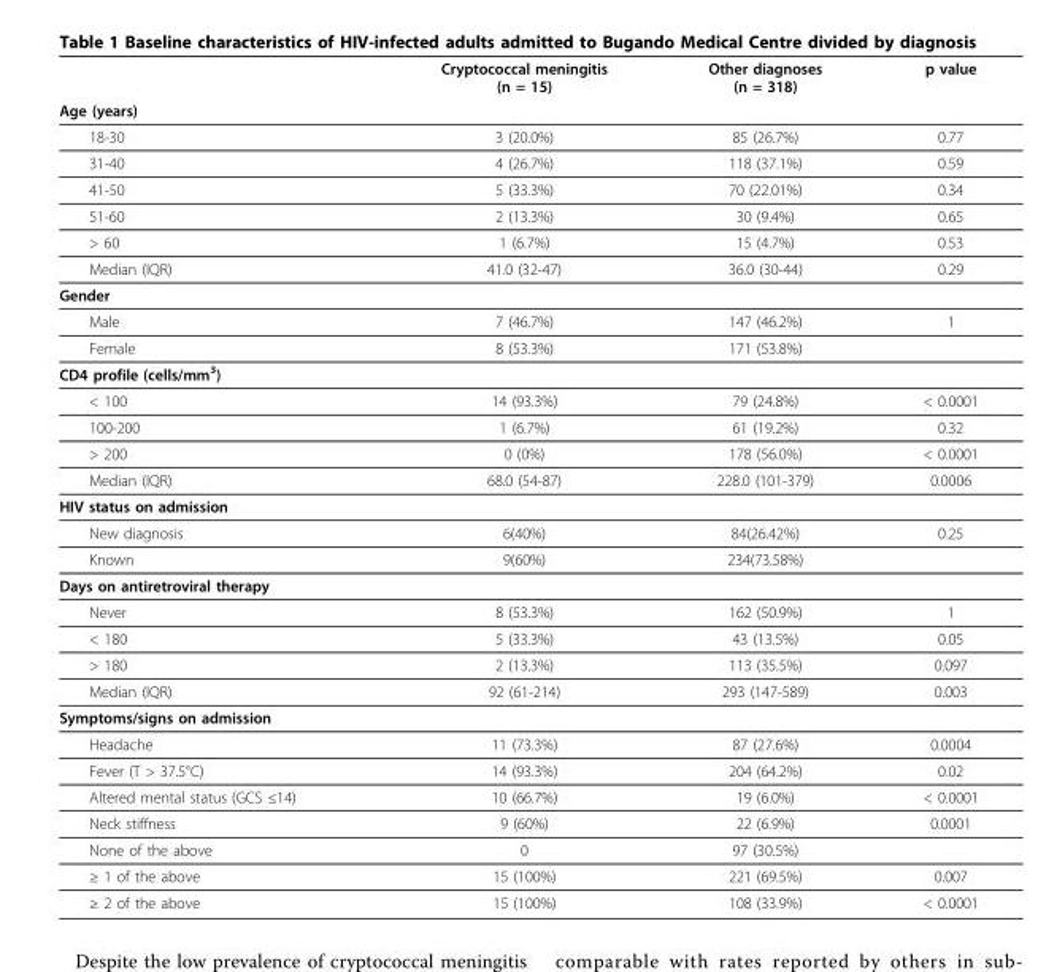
<table><thead><tr><td rowspan="2">Age (years)</td><td rowspan="2">Cryptococcal meningitis (n = 15)</td><td rowspan="2">Other diagnoses (n = 318)</td><td rowspan="2">p value</td></tr><tr></tr></thead><tbody><tr><td>18-30</td><td>3 (20.0%)</td><td>85 (26.7%)</td><td>0.77</td></tr><tr><td>31-40</td><td>4 (26.7%)</td><td>118 (37.1%)</td><td>0.59</td></tr><tr><td>41-50</td><td>5 (33.3%)</td><td>70 (22.01%)</td><td>0.34</td></tr><tr><td>51-60</td><td>2 (13.3%)</td><td>30 (9.4%)</td><td>0.65</td></tr><tr><td>&gt; 60</td><td>1 (6.7%)</td><td>15 (4.7%)</td><td>0.53</td></tr><tr><td>Median (IQR)</td><td>41.0 (32-47)</td><td>36.0 (30-44)</td><td>0.29</td></tr><tr><td colspan="4">Gender</td></tr><tr><td>Male</td><td>7 (46.7%)</td><td>147 (46.2%)</td><td>1</td></tr><tr><td>Female</td><td>8 (53.3%)</td><td>171 (53.8%)</td><td></td></tr><tr><td colspan="4">CD4 profile (cells/mm<sup>3</sup>)</td></tr><tr><td>&lt; 100</td><td>14 (93.3%)</td><td>79 (24.8%)</td><td>&lt; 0.0001</td></tr><tr><td>100-200</td><td>1 (6.7%)</td><td>61 (19.2%)</td><td>0.32</td></tr><tr><td>&gt; 200</td><td>0 (0%)</td><td>178 (56.0%)</td><td>&lt; 0.0001</td></tr><tr><td>Median (IQR)</td><td>68.0 (54-87)</td><td>228.0 (101-379)</td><td>0.0006</td></tr><tr><td colspan="4">HIV status on admission</td></tr><tr><td>New diagnosis</td><td>6(40%)</td><td>84(26.42%)</td><td>0.25</td></tr><tr><td>Known</td><td>9(60%)</td><td>234(73.58%)</td><td></td></tr><tr><td colspan="4">Days on antiretroviral therapy</td></tr><tr><td>Never</td><td>8 (53.3%)</td><td>162 (50.9%)</td><td>1</td></tr><tr><td>&lt; 180</td><td>5 (33.3%)</td><td>43 (13.5%)</td><td>0.05</td></tr><tr><td>&gt; 180</td><td>2 (13.3%)</td><td>113 (35.5%)</td><td>0.097</td></tr><tr><td>Median (IQR)</td><td>92 (61-214)</td><td>293 (147-589)</td><td>0.003</td></tr><tr><td colspan="4">Symptoms/signs on admission</td></tr><tr><td>Headache</td><td>11 (73.3%)</td><td>87 (27.6%)</td><td>0.0004</td></tr><tr><td>Fever (T &gt; 37.5°C)</td><td>14 (93.3%)</td><td>204 (64.2%)</td><td>0.02</td></tr><tr><td>Altered mental status (GCS ≤14)</td><td>10 (66.7%)</td><td>19 (6.0%)</td><td>&lt; 0.0001</td></tr><tr><td>Neck stiffness</td><td>9 (60%)</td><td>22 (6.9%)</td><td>0.0001</td></tr><tr><td>None of the above</td><td>0</td><td>97 (30.5%)</td><td></td></tr><tr><td>≥ 1 of the above</td><td>15 (100%)</td><td>221 (69.5%)</td><td>0.007</td></tr><tr><td>≥ 2 of the above</td><td>15 (100%)</td><td>108 (33.9%)</td><td>&lt; 0.0001</td></tr></tbody></table>